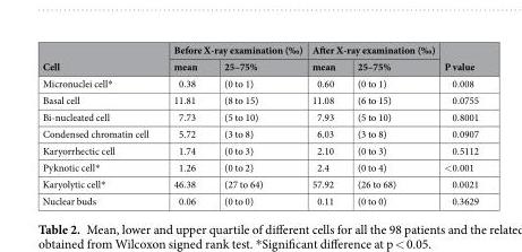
<table><thead><tr><td rowspan="2">Cell</td><td colspan="2">Before X-ray examination (‰)</td><td colspan="2">After X-ray examination (‰)</td><td rowspan="2">P value</td></tr><tr><td>mean</td><td>25–75%</td><td>mean</td><td>25–75%</td></tr></thead><tbody><tr><td>Micronuclei cell*</td><td>0.38</td><td>(0 to 1)</td><td>0.60</td><td>(0 to 1)</td><td>0.008</td></tr><tr><td>Basal cell</td><td>11.81</td><td>(8 to 15)</td><td>11.08</td><td>(6 to 15)</td><td>0.0755</td></tr><tr><td>Bi-nucleated cell</td><td>7.73</td><td>(5 to 10)</td><td>7.93</td><td>(5 to 10)</td><td>0.8001</td></tr><tr><td>Condensed chromatin cell</td><td>5.72</td><td>(3 to 8)</td><td>6.03</td><td>(3 to 8)</td><td>0.0907</td></tr><tr><td>Karyorrhectic cell</td><td>1.74</td><td>(0 to 3)</td><td>2.10</td><td>(0 to 3)</td><td>0.5112</td></tr><tr><td>Pyknotic cell*</td><td>1.26</td><td>(0 to 2)</td><td>2.4</td><td>(0 to 4)</td><td>&lt;0.001</td></tr><tr><td>Karyolytic cell*</td><td>46.38</td><td>(27 to 64)</td><td>57.92</td><td>(26 to 68)</td><td>0.0021</td></tr><tr><td>Nuclear buds</td><td>0.06</td><td>(0 to 0)</td><td>0.11</td><td>(0 to 0)</td><td>0.3629</td></tr></tbody></table>